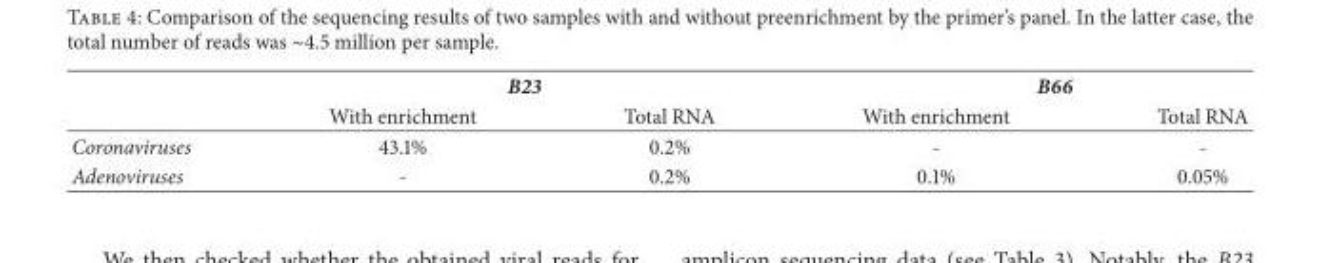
<table><thead><tr><td rowspan="2"></td><td colspan="2">B23</td><td colspan="2">B66</td></tr><tr><td>With enrichment</td><td>Total RNA</td><td>With enrichment</td><td>Total RNA</td></tr></thead><tbody><tr><td>Coronaviruses</td><td>43.1%</td><td>0.2%</td><td>-</td><td>-</td></tr><tr><td>Adenoviruses</td><td>-</td><td>0.2%</td><td>0.1%</td><td>0.05%</td></tr></tbody></table>